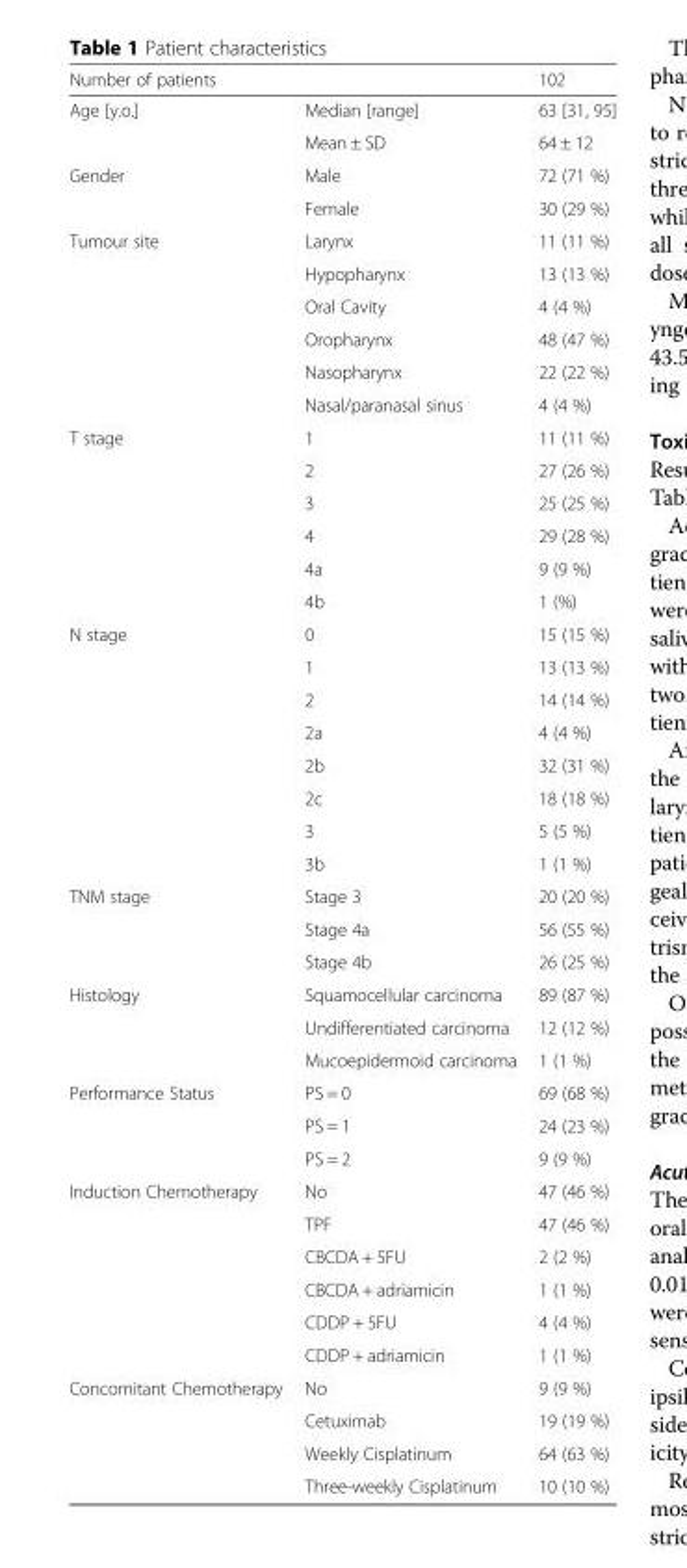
<table><thead><tr><td>Number of patients</td><td></td><td>102</td></tr></thead><tbody><tr><td rowspan="2">Age [y.o.]</td><td>Median [range]</td><td>63 [31, 95]</td></tr><tr><td>Mean ± SD</td><td>64 ± 12</td></tr><tr><td rowspan="2">Gender</td><td>Male</td><td>72 (71 %)</td></tr><tr><td>Female</td><td>30 (29 %)</td></tr><tr><td rowspan="6">Tumour site</td><td>Larynx</td><td>11 (11 %)</td></tr><tr><td>Hypopharynx</td><td>13 (13 %)</td></tr><tr><td>Oral Cavity</td><td>4 (4 %)</td></tr><tr><td>Oropharynx</td><td>48 (47 %)</td></tr><tr><td>Nasopharynx</td><td>22 (22 %)</td></tr><tr><td>Nasal/paranasal sinus</td><td>4 (4 %)</td></tr><tr><td rowspan="6">T stage</td><td>1</td><td>11 (11 %)</td></tr><tr><td>2</td><td>27 (26 %)</td></tr><tr><td>3</td><td>25 (25 %)</td></tr><tr><td>4</td><td>29 (28 %)</td></tr><tr><td>4a</td><td>9 (9 %)</td></tr><tr><td>4b</td><td>1 (%)</td></tr><tr><td rowspan="8">N stage</td><td>0</td><td>15 (15 %)</td></tr><tr><td>1</td><td>13 (13 %)</td></tr><tr><td>2</td><td>14 (14 %)</td></tr><tr><td>2a</td><td>4 (4 %)</td></tr><tr><td>2b</td><td>32 (31 %)</td></tr><tr><td>2c</td><td>18 (18 %)</td></tr><tr><td>3</td><td>5 (5 %)</td></tr><tr><td>3b</td><td>1 (1 %)</td></tr><tr><td rowspan="3">TNM stage</td><td>Stage 3</td><td>20 (20 %)</td></tr><tr><td>Stage 4a</td><td>56 (55 %)</td></tr><tr><td>Stage 4b</td><td>26 (25 %)</td></tr><tr><td rowspan="3">Histology</td><td>Squamocellular carcinoma</td><td>89 (87 %)</td></tr><tr><td>Undifferentiated carcinoma</td><td>12 (12 %)</td></tr><tr><td>Mucoepidermoid carcinoma</td><td>1 (1 %)</td></tr><tr><td rowspan="3">Performance Status</td><td>PS = 0</td><td>69 (68 %)</td></tr><tr><td>PS = 1</td><td>24 (23 %)</td></tr><tr><td>PS = 2</td><td>9 (9 %)</td></tr><tr><td rowspan="6">Induction Chemotherapy</td><td>No</td><td>47 (46 %)</td></tr><tr><td>TPF</td><td>47 (46 %)</td></tr><tr><td>CBCDA + 5FU</td><td>2 (2 %)</td></tr><tr><td>CBCDA + adriamicin</td><td>1 (1 %)</td></tr><tr><td>CDDP + 5FU</td><td>4 (4 %)</td></tr><tr><td>CDDP + adriamicin</td><td>1 (1 %)</td></tr><tr><td rowspan="4">Concomitant Chemotherapy</td><td>No</td><td>9 (9 %)</td></tr><tr><td>Cetuximab</td><td>19 (19 %)</td></tr><tr><td>Weekly Cisplatinum</td><td>64 (63 %)</td></tr><tr><td>Three-weekly Cisplatinum</td><td>10 (10 %)</td></tr></tbody></table>